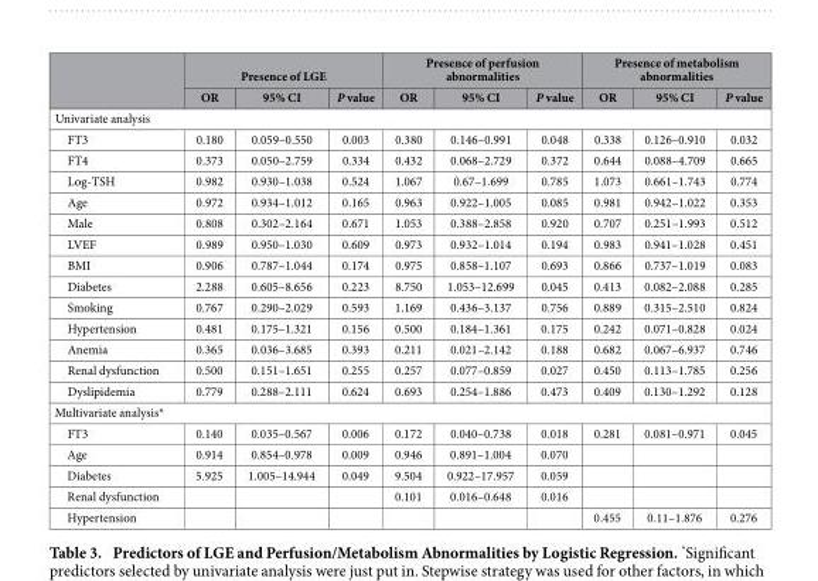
<table><thead><tr><td rowspan="2"></td><td colspan="3">Presence of LGE</td><td colspan="3">Presence of perfusion abnormalities</td><td colspan="3">Presence of metabolism abnormalities</td></tr><tr><td>OR</td><td>95% CI</td><td>P value</td><td>OR</td><td>95% CI</td><td>P value</td><td>OR</td><td>95% CI</td><td>P value</td></tr></thead><tbody><tr><td colspan="10">Univariate analysis</td></tr><tr><td>FT3</td><td>0.180</td><td>0.059–0.550</td><td>0.003</td><td>0.380</td><td>0.146–0.991</td><td>0.048</td><td>0.338</td><td>0.126–0.910</td><td>0.032</td></tr><tr><td>FT4</td><td>0.373</td><td>0.050–2.759</td><td>0.334</td><td>0.432</td><td>0.068–2.729</td><td>0.372</td><td>0.644</td><td>0.088–4.709</td><td>0.665</td></tr><tr><td>Log-TSH</td><td>0.982</td><td>0.930–1.038</td><td>0.524</td><td>1.067</td><td>0.67–1.699</td><td>0.785</td><td>1.073</td><td>0.661–1.743</td><td>0.774</td></tr><tr><td>Age</td><td>0.972</td><td>0.934–1.012</td><td>0.165</td><td>0.963</td><td>0.922–1.005</td><td>0.085</td><td>0.981</td><td>0.942–1.022</td><td>0.353</td></tr><tr><td>Male</td><td>0.808</td><td>0.302–2.164</td><td>0.671</td><td>1.053</td><td>0.388–2.858</td><td>0.920</td><td>0.707</td><td>0.251–1.993</td><td>0.512</td></tr><tr><td>LVEF</td><td>0.989</td><td>0.950–1.030</td><td>0.609</td><td>0.973</td><td>0.932–1.014</td><td>0.194</td><td>0.983</td><td>0.941–1.028</td><td>0.451</td></tr><tr><td>BMI</td><td>0.906</td><td>0.787–1.044</td><td>0.174</td><td>0.975</td><td>0.858–1.107</td><td>0.693</td><td>0.866</td><td>0.737–1.019</td><td>0.083</td></tr><tr><td>Diabetes</td><td>2.288</td><td>0.605–8.656</td><td>0.223</td><td>8.750</td><td>1.053–12.699</td><td>0.045</td><td>0.413</td><td>0.082–2.088</td><td>0.285</td></tr><tr><td>Smoking</td><td>0.767</td><td>0.290–2.029</td><td>0.593</td><td>1.169</td><td>0.436–3.137</td><td>0.756</td><td>0.889</td><td>0.315–2.510</td><td>0.824</td></tr><tr><td>Hypertension</td><td>0.481</td><td>0.175–1.321</td><td>0.156</td><td>0.500</td><td>0.184–1.361</td><td>0.175</td><td>0.242</td><td>0.071–0.828</td><td>0.024</td></tr><tr><td>Anemia</td><td>0.365</td><td>0.036–3.685</td><td>0.393</td><td>0.211</td><td>0.021–2.142</td><td>0.188</td><td>0.682</td><td>0.067–6.937</td><td>0.746</td></tr><tr><td>Renal dysfunction</td><td>0.500</td><td>0.151–1.651</td><td>0.255</td><td>0.257</td><td>0.077–0.859</td><td>0.027</td><td>0.450</td><td>0.113–1.785</td><td>0.256</td></tr><tr><td>Dyslipidemia</td><td>0.779</td><td>0.288–2.111</td><td>0.624</td><td>0.693</td><td>0.254–1.886</td><td>0.473</td><td>0.409</td><td>0.130–1.292</td><td>0.128</td></tr><tr><td colspan="10">Multivariate analysis*</td></tr><tr><td>FT3</td><td>0.140</td><td>0.035–0.567</td><td>0.006</td><td>0.172</td><td>0.040–0.738</td><td>0.018</td><td>0.281</td><td>0.081–0.971</td><td>0.045</td></tr><tr><td>Age</td><td>0.914</td><td>0.854–0.978</td><td>0.009</td><td>0.946</td><td>0.891–1.004</td><td>0.070</td><td></td><td></td><td></td></tr><tr><td>Diabetes</td><td>5.925</td><td>1.005–14.944</td><td>0.049</td><td>9.504</td><td>0.922–17.957</td><td>0.059</td><td></td><td></td><td></td></tr><tr><td>Renal dysfunction</td><td></td><td></td><td></td><td>0.101</td><td>0.016–0.648</td><td>0.016</td><td></td><td></td><td></td></tr><tr><td>Hypertension</td><td></td><td></td><td></td><td></td><td></td><td></td><td>0.455</td><td>0.11–1.876</td><td>0.276</td></tr></tbody></table>